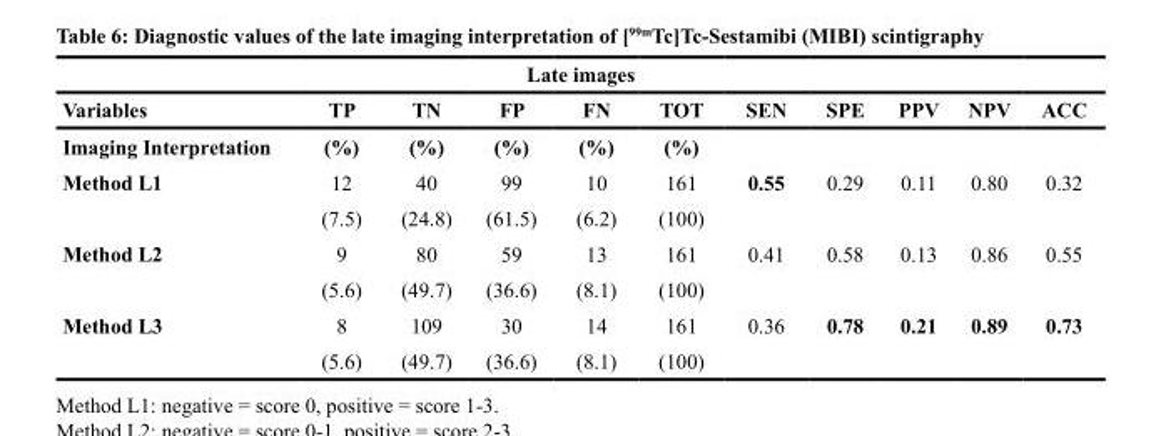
<table><thead><tr><td colspan="11">Late images</td></tr><tr><td>Variables</td><td>TP</td><td>TN</td><td>FP</td><td>FN</td><td>TOT</td><td>SEN</td><td>SPE</td><td>PPV</td><td>NPV</td><td>ACC</td></tr></thead><tbody><tr><td>Imaging Interpretation</td><td>(%)</td><td>(%)</td><td>(%)</td><td>(%)</td><td>(%)</td><td></td><td></td><td></td><td></td><td></td></tr><tr><td rowspan="2">Method L1</td><td>12</td><td>40</td><td>99</td><td>10</td><td>161</td><td>0.55</td><td>0.29</td><td>0.11</td><td>0.80</td><td>0.32</td></tr><tr><td>(7.5)</td><td>(24.8)</td><td>(61.5)</td><td>(6.2)</td><td>(100)</td><td></td><td></td><td></td><td></td><td></td></tr><tr><td rowspan="2">Method L2</td><td>9</td><td>80</td><td>59</td><td>13</td><td>161</td><td>0.41</td><td>0.58</td><td>0.13</td><td>0.86</td><td>0.55</td></tr><tr><td>(5.6)</td><td>(49.7)</td><td>(36.6)</td><td>(8.1)</td><td>(100)</td><td></td><td></td><td></td><td></td><td></td></tr><tr><td rowspan="2">Method L3</td><td>8</td><td>109</td><td>30</td><td>14</td><td>161</td><td>0.36</td><td>0.78</td><td>0.21</td><td>0.89</td><td>0.73</td></tr><tr><td>(5.6)</td><td>(49.7)</td><td>(36.6)</td><td>(8.1)</td><td>(100)</td><td></td><td></td><td></td><td></td><td></td></tr></tbody></table>